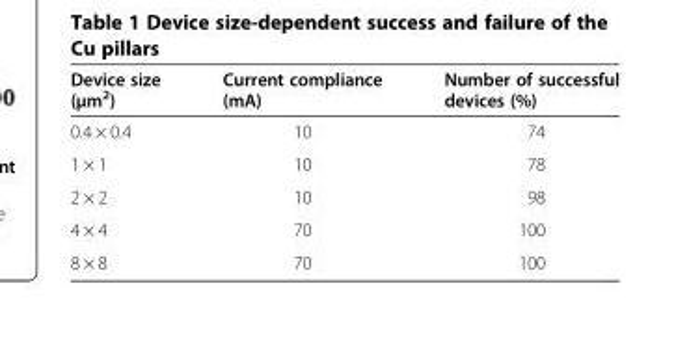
<table><thead><tr><td>Device size (μm<sup>2</sup>)</td><td>Current compliance (mA)</td><td>Number of successful devices (%)</td></tr></thead><tbody><tr><td>0.4 × 0.4</td><td>10</td><td>74</td></tr><tr><td>1 × 1</td><td>10</td><td>78</td></tr><tr><td>2 × 2</td><td>10</td><td>98</td></tr><tr><td>4 × 4</td><td>70</td><td>100</td></tr><tr><td>8 × 8</td><td>70</td><td>100</td></tr></tbody></table>